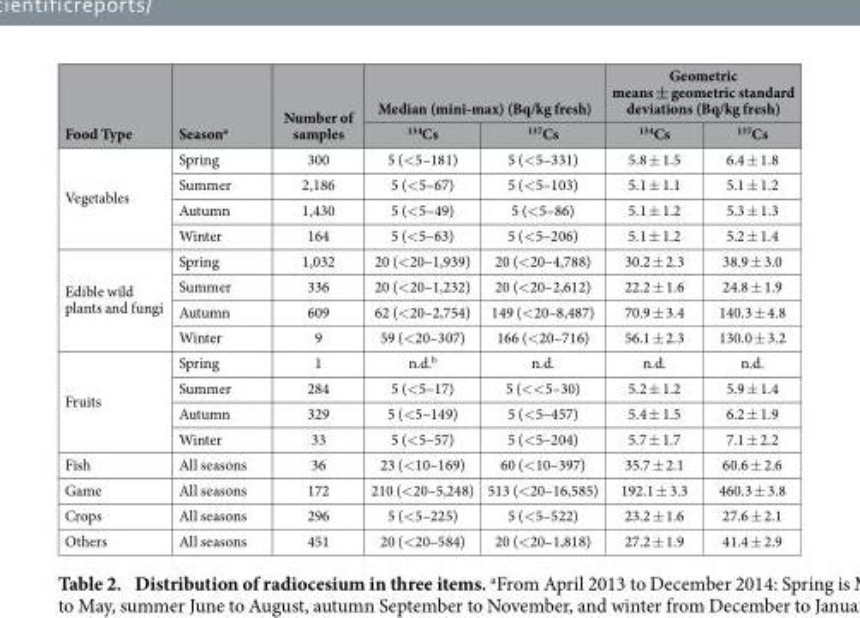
<table><thead><tr><td rowspan="2">Food Type</td><td rowspan="2">Season<sup>a</sup></td><td rowspan="2">Number of samples</td><td colspan="2">Median (mini-max) (Bq/kg fresh)</td><td colspan="2">Geometric means ± geometric standard deviations (Bq/kg fresh)</td></tr><tr><td><sup>134</sup>Cs</td><td><sup>137</sup>Cs</td><td><sup>134</sup>Cs</td><td><sup>137</sup>Cs</td></tr></thead><tbody><tr><td rowspan="4">Vegetables</td><td>Spring</td><td>300</td><td>5 (&lt; 5–181)</td><td>5 (&lt; 5–331)</td><td>5.8 ± 1.5</td><td>6.4 ± 1.8</td></tr><tr><td>Summer</td><td>2,186</td><td>5 (&lt; 5–67)</td><td>5 (&lt; 5–103)</td><td>5.1 ± 1.1</td><td>5.1 ± 1.2</td></tr><tr><td>Autumn</td><td>1,430</td><td>5 (&lt; 5–49)</td><td>5 (&lt; 5–86)</td><td>5.1 ± 1.2</td><td>5.3 ± 1.3</td></tr><tr><td>Winter</td><td>164</td><td>5 (&lt; 5–63)</td><td>5 (&lt; 5–206)</td><td>5.1 ± 1.2</td><td>5.2 ± 1.4</td></tr><tr><td rowspan="4">Edible wild plants and fungi</td><td>Spring</td><td>1,032</td><td>20 (&lt; 20–1,939)</td><td>20 (&lt; 20–4,788)</td><td>30.2 ± 2.3</td><td>38.9 ± 3.0</td></tr><tr><td>Summer</td><td>336</td><td>20 (&lt; 20–1,232)</td><td>20 (&lt; 20–2,612)</td><td>22.2 ± 1.6</td><td>24.8 ± 1.9</td></tr><tr><td>Autumn</td><td>609</td><td>62 (&lt; 20–2,754)</td><td>149 (&lt; 20–8,487)</td><td>70.9 ± 3.4</td><td>140.3 ± 4.8</td></tr><tr><td>Winter</td><td>9</td><td>59 (&lt; 20–307)</td><td>166 (&lt; 20–716)</td><td>56.1 ± 2.3</td><td>130.0 ± 3.2</td></tr><tr><td rowspan="4">Fruits</td><td>Spring</td><td>1</td><td>n.d.<sup>b</sup></td><td>n.d.</td><td>n.d.</td><td>n.d.</td></tr><tr><td>Summer</td><td>284</td><td>5 (&lt; 5–17)</td><td>5 (&lt; &lt; 5–30)</td><td>5.2 ± 1.2</td><td>5.9 ± 1.4</td></tr><tr><td>Autumn</td><td>329</td><td>5 (&lt; 5–149)</td><td>5 (&lt; 5–457)</td><td>5.4 ± 1.5</td><td>6.2 ± 1.9</td></tr><tr><td>Winter</td><td>33</td><td>5 (&lt; 5–57)</td><td>5 (&lt; 5–204)</td><td>5.7 ± 1.7</td><td>7.1 ± 2.2</td></tr><tr><td>Fish</td><td>All seasons</td><td>36</td><td>23 (&lt; 10–169)</td><td>60 (&lt; 10–397)</td><td>35.7 ± 2.1</td><td>60.6 ± 2.6</td></tr><tr><td>Game</td><td>All seasons</td><td>172</td><td>210 (&lt; 20–5,248)</td><td>513 (&lt; 20–16,585)</td><td>192.1 ± 3.3</td><td>460.3 ± 3.8</td></tr><tr><td>Crops</td><td>All seasons</td><td>296</td><td>5 (&lt; 5–225)</td><td>5 (&lt; 5–522)</td><td>23.2 ± 1.6</td><td>27.6 ± 2.1</td></tr><tr><td>Others</td><td>All seasons</td><td>451</td><td>20 (&lt; 20–584)</td><td>20 (&lt; 20–1,818)</td><td>27.2 ± 1.9</td><td>41.4 ± 2.9</td></tr></tbody></table>